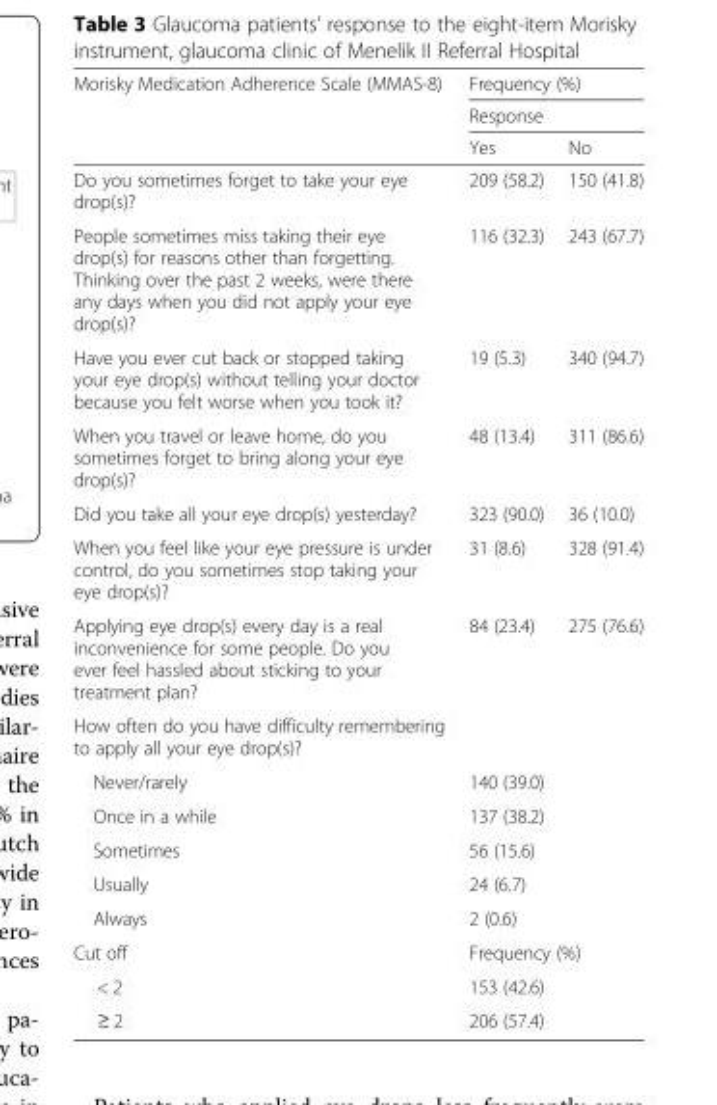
<table><thead><tr><td rowspan="3">Morisky Medication Adherence Scale (MMAS-8)</td><td rowspan="2" colspan="2">Frequency (%) Response</td></tr><tr></tr><tr><td>Yes</td><td>No</td></tr></thead><tbody><tr><td>Do you sometimes forget to take your eye drop(s)?</td><td>209 (58.2)</td><td>150 (41.8)</td></tr><tr><td>People sometimes miss taking their eye drop(s) for reasons other than forgetting. Thinking over the past 2 weeks, were there any days when you did not apply your eye drop(s)?</td><td>116 (32.3)</td><td>243 (67.7)</td></tr><tr><td>Have you ever cut back or stopped taking your eye drop(s) without telling your doctor because you felt worse when you took it?</td><td>19 (5.3)</td><td>340 (94.7)</td></tr><tr><td>When you travel or leave home, do you sometimes forget to bring along your eye drop(s)?</td><td>48 (13.4)</td><td>311 (86.6)</td></tr><tr><td>Did you take all your eye drop(s) yesterday?</td><td>323 (90.0)</td><td>36 (10.0)</td></tr><tr><td>When you feel like your eye pressure is under control, do you sometimes stop taking your eye drop(s)?</td><td>31 (8.6)</td><td>328 (91.4)</td></tr><tr><td>Applying eye drop(s) every day is a real inconvenience for some people. Do you ever feel hassled about sticking to your treatment plan?</td><td>84 (23.4)</td><td>275 (76.6)</td></tr><tr><td colspan="3">How often do you have difficulty remembering to apply all your eye drop(s)?</td></tr><tr><td>Never/rarely</td><td colspan="2">140 (39.0)</td></tr><tr><td>Once in a while</td><td colspan="2">137 (38.2)</td></tr><tr><td>Sometimes</td><td colspan="2">56 (15.6)</td></tr><tr><td>Usually</td><td colspan="2">24 (6.7)</td></tr><tr><td>Always</td><td colspan="2">2 (0.6)</td></tr><tr><td>Cut off</td><td colspan="2">Frequency (%)</td></tr><tr><td>&lt; 2</td><td colspan="2">153 (42.6)</td></tr><tr><td>≥ 2</td><td colspan="2">206 (57.4)</td></tr></tbody></table>